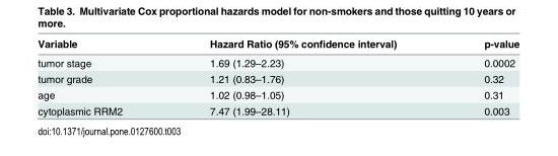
<table><thead><tr><td>Variable</td><td>Hazard Ratio (95% confidence interval)</td><td>p-value</td></tr></thead><tbody><tr><td>tumor stage</td><td>1.69 (1.29–2.23)</td><td>0.0002</td></tr><tr><td>tumor grade</td><td>1.21 (0.83–1.76)</td><td>0.32</td></tr><tr><td>age</td><td>1.02 (0.98–1.05)</td><td>0.31</td></tr><tr><td>cytoplasmic RRM2</td><td>7.47 (1.99–28.11)</td><td>0.003</td></tr></tbody></table>